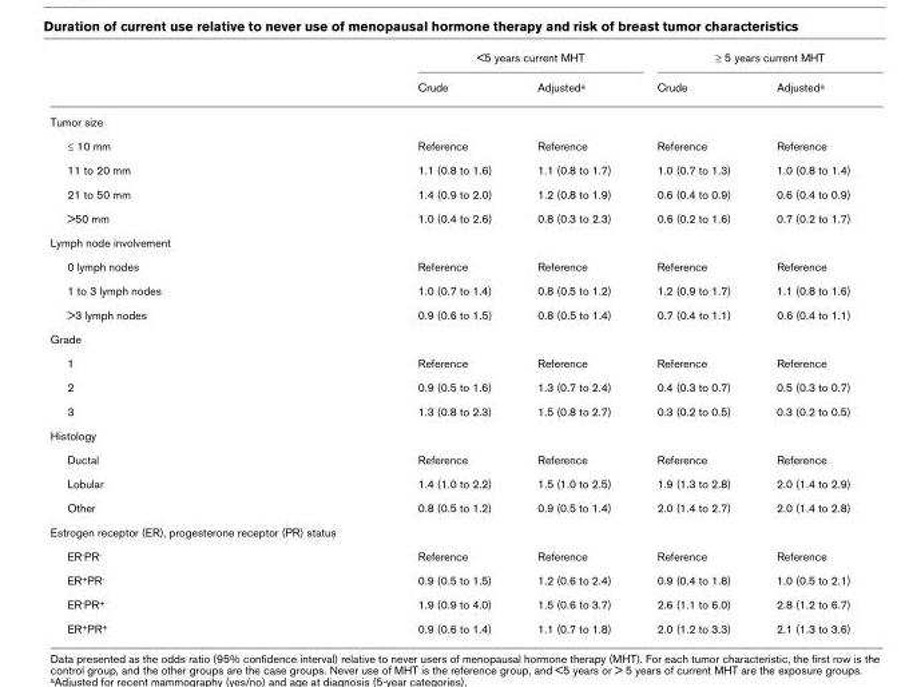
<table><thead><tr><td rowspan="2"></td><td colspan="2">&lt;5 years current MHT</td><td colspan="2">≥ 5 years current MHT</td></tr><tr><td>Crude</td><td>Adjusted<sup>a</sup></td><td>Crude</td><td>Adjusted<sup>a</sup></td></tr></thead><tbody><tr><td colspan="5">Tumor size</td></tr><tr><td>≤ 10 mm</td><td>Reference</td><td>Reference</td><td>Reference</td><td>Reference</td></tr><tr><td>11 to 20 mm</td><td>1.1 (0.8 to 1.6)</td><td>1.1 (0.8 to 1.7)</td><td>1.0 (0.7 to 1.3)</td><td>1.0 (0.8 to 1.4)</td></tr><tr><td>21 to 50 mm</td><td>1.4 (0.9 to 2.0)</td><td>1.2 (0.8 to 1.9)</td><td>0.6 (0.4 to 0.9)</td><td>0.6 (0.4 to 0.9)</td></tr><tr><td>&gt;50 mm</td><td>1.0 (0.4 to 2.6)</td><td>0.8 (0.3 to 2.3)</td><td>0.6 (0.2 to 1.6)</td><td>0.7 (0.2 to 1.7)</td></tr><tr><td colspan="5">Lymph node involvement</td></tr><tr><td>0 lymph nodes</td><td>Reference</td><td>Reference</td><td>Reference</td><td>Reference</td></tr><tr><td>1 to 3 lymph nodes</td><td>1.0 (0.7 to 1.4)</td><td>0.8 (0.5 to 1.2)</td><td>1.2 (0.9 to 1.7)</td><td>1.1 (0.8 to 1.6)</td></tr><tr><td>&gt;3 lymph nodes</td><td>0.9 (0.6 to 1.5)</td><td>0.8 (0.5 to 1.4)</td><td>0.7 (0.4 to 1.1)</td><td>0.6 (0.4 to 1.1)</td></tr><tr><td colspan="5">Grade</td></tr><tr><td>1</td><td>Reference</td><td>Reference</td><td>Reference</td><td>Reference</td></tr><tr><td>2</td><td>0.9 (0.5 to 1.6)</td><td>1.3 (0.7 to 2.4)</td><td>0.4 (0.3 to 0.7)</td><td>0.5 (0.3 to 0.7)</td></tr><tr><td>3</td><td>1.3 (0.8 to 2.3)</td><td>1.5 (0.8 to 2.7)</td><td>0.3 (0.2 to 0.5)</td><td>0.3 (0.2 to 0.5)</td></tr><tr><td colspan="5">Histology</td></tr><tr><td>Ductal</td><td>Reference</td><td>Reference</td><td>Reference</td><td>Reference</td></tr><tr><td>Lobular</td><td>1.4 (1.0 to 2.2)</td><td>1.5 (1.0 to 2.5)</td><td>1.9 (1.3 to 2.8)</td><td>2.0 (1.4 to 2.9)</td></tr><tr><td>Other</td><td>0.8 (0.5 to 1.2)</td><td>0.9 (0.5 to 1.4)</td><td>2.0 (1.4 to 2.7)</td><td>2.0 (1.4 to 2.8)</td></tr><tr><td colspan="5">Estrogen receptor (ER), progesterone receptor (PR) status</td></tr><tr><td>ER<sup>-</sup>PR<sup>-</sup></td><td>Reference</td><td>Reference</td><td>Reference</td><td>Reference</td></tr><tr><td>ER<sup>+</sup>PR<sup>-</sup></td><td>0.9 (0.5 to 1.5)</td><td>1.2 (0.6 to 2.4)</td><td>0.9 (0.4 to 1.8)</td><td>1.0 (0.5 to 2.1)</td></tr><tr><td>ER<sup>-</sup>PR<sup>+</sup></td><td>1.9 (0.9 to 4.0)</td><td>1.5 (0.6 to 3.7)</td><td>2.6 (1.1 to 6.0)</td><td>2.8 (1.2 to 6.7)</td></tr><tr><td>ER<sup>+</sup>PR<sup>+</sup></td><td>0.9 (0.6 to 1.4)</td><td>1.1 (0.7 to 1.8)</td><td>2.0 (1.2 to 3.3)</td><td>2.1 (1.3 to 3.6)</td></tr></tbody></table>